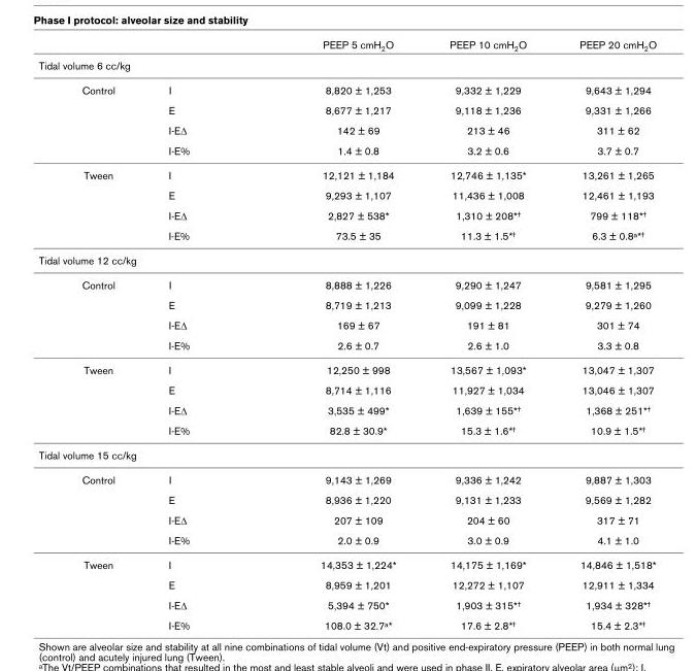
<table><thead><tr><td></td><td></td><td>PEEP 5 cmH<sub>2</sub>O</td><td>PEEP 10 cmH<sub>2</sub>O</td><td>PEEP 20 cmH<sub>2</sub>O</td></tr></thead><tbody><tr><td colspan="5">Tidal volume 6 cc/kg</td></tr><tr><td rowspan="4">Control</td><td>I</td><td>8,820 ± 1,253</td><td>9,332 ± 1,229</td><td>9,643 ± 1,294</td></tr><tr><td>E</td><td>8,677 ± 1,217</td><td>9,118 ± 1,236</td><td>9,331 ± 1,266</td></tr><tr><td>I-EΔ</td><td>142 ± 69</td><td>213 ± 46</td><td>311 ± 62</td></tr><tr><td>I-E%</td><td>1.4 ± 0.8</td><td>3.2 ± 0.6</td><td>3.7 ± 0.7</td></tr><tr><td rowspan="4">Tween</td><td>I</td><td>12,121 ± 1,184</td><td>12,746 ± 1,135*</td><td>13,261 ± 1,265</td></tr><tr><td>E</td><td>9,293 ± 1,107</td><td>11,436 ± 1,008</td><td>12,461 ± 1,193</td></tr><tr><td>I-EΔ</td><td>2,827 ± 538*</td><td>1,310 ± 208*<sup>†</sup></td><td>799 ± 118*<sup>†</sup></td></tr><tr><td>I-E%</td><td>73.5 ± 35</td><td>11.3 ± 1.5*<sup>†</sup></td><td>6.3 ± 0.8<sup>a</sup>*<sup>†</sup></td></tr><tr><td colspan="5">Tidal volume 12 cc/kg</td></tr><tr><td rowspan="4">Control</td><td>I</td><td>8,888 ± 1,226</td><td>9,290 ± 1,247</td><td>9,581 ± 1,295</td></tr><tr><td>E</td><td>8,719 ± 1,213</td><td>9,099 ± 1,228</td><td>9,279 ± 1,260</td></tr><tr><td>I-EΔ</td><td>169 ± 67</td><td>191 ± 81</td><td>301 ± 74</td></tr><tr><td>I-E%</td><td>2.6 ± 0.7</td><td>2.6 ± 1.0</td><td>3.3 ± 0.8</td></tr><tr><td rowspan="4">Tween</td><td>I</td><td>12,250 ± 998</td><td>13,567 ± 1,093*</td><td>13,047 ± 1,307</td></tr><tr><td>E</td><td>8,714 ± 1,116</td><td>11,927 ± 1,034</td><td>13,046 ± 1,307</td></tr><tr><td>I-EΔ</td><td>3,535 ± 499*</td><td>1,639 ± 155*<sup>†</sup></td><td>1,368 ± 251*<sup>†</sup></td></tr><tr><td>I-E%</td><td>82.8 ± 30.9*</td><td>15.3 ± 1.6*<sup>†</sup></td><td>10.9 ± 1.5*<sup>†</sup></td></tr><tr><td colspan="5">Tidal volume 15 cc/kg</td></tr><tr><td rowspan="4">Control</td><td>I</td><td>9,143 ± 1,269</td><td>9,336 ± 1,242</td><td>9,887 ± 1,303</td></tr><tr><td>E</td><td>8,936 ± 1,220</td><td>9,131 ± 1,233</td><td>9,569 ± 1,282</td></tr><tr><td>I-EΔ</td><td>207 ± 109</td><td>204 ± 60</td><td>317 ± 71</td></tr><tr><td>I-E%</td><td>2.0 ± 0.9</td><td>3.0 ± 0.9</td><td>4.1 ± 1.0</td></tr><tr><td rowspan="4">Tween</td><td>I</td><td>14,353 ± 1,224*</td><td>14,175 ± 1,169*</td><td>14,846 ± 1,518*</td></tr><tr><td>E</td><td>8,959 ± 1,201</td><td>12,272 ± 1,107</td><td>12,911 ± 1,334</td></tr><tr><td>I-EΔ</td><td>5,394 ± 750*</td><td>1,903 ± 315*<sup>†</sup></td><td>1,934 ± 328*<sup>†</sup></td></tr><tr><td>I-E%</td><td>108.0 ± 32.7<sup>a</sup>*</td><td>17.6 ± 2.8*<sup>†</sup></td><td>15.4 ± 2.3*<sup>†</sup></td></tr></tbody></table>